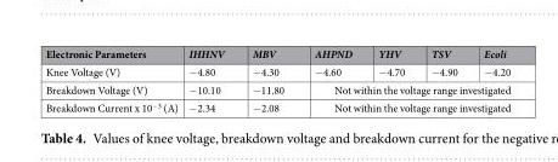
<table><thead><tr><td>Electronic Parameters</td><td>IHHNV</td><td>MBV</td><td>AHPND</td><td>YHV</td><td>TSV</td><td>Ecoli</td></tr></thead><tbody><tr><td>Knee Voltage (V)</td><td>−4.80</td><td>−4.30</td><td>−4.60</td><td>−4.70</td><td>−4.90</td><td>−4.20</td></tr><tr><td>Breakdown Voltage (V)</td><td>−10.10</td><td>−11.80</td><td colspan="4">Not within the voltage range investigated</td></tr><tr><td>Breakdown Current x 10<sup>−3</sup> (A)</td><td>−2.34</td><td>−2.08</td><td colspan="4">Not within the voltage range investigated</td></tr></tbody></table>